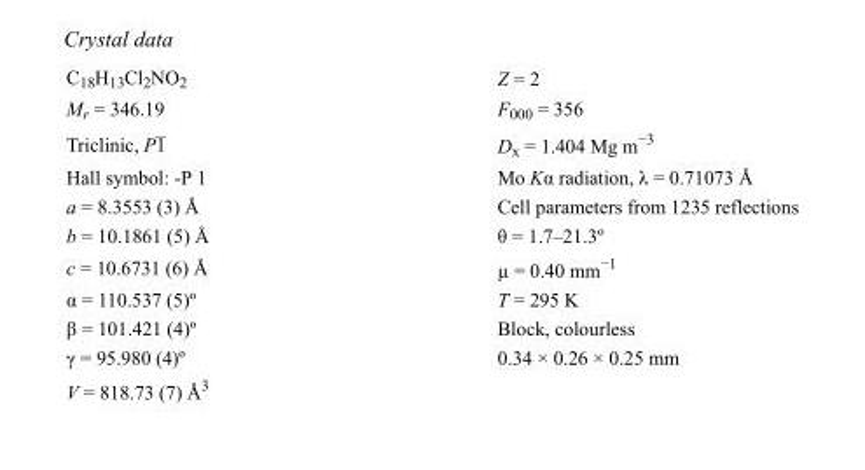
<table><tbody><tr><td>C<sub>18</sub>H<sub>13</sub>Cl<sub>2</sub>NO<sub>2</sub></td><td>Z = 2</td></tr><tr><td>M<sub>r</sub> = 346.19</td><td>F000 = 356</td></tr><tr><td>Triclinic, P1</td><td>D<sub>x</sub> = 1.404 Mg m<sup>−3</sup></td></tr><tr><td>Hall symbol: -P 1</td><td>Mo Kα radiation, λ = 0.71073 Å</td></tr><tr><td>a = 8.3553 (3) Å</td><td>Cell parameters from 1235 reflections</td></tr><tr><td>b = 10.1861 (5) Å</td><td>θ = 1.7–21.3º</td></tr><tr><td>c = 10.6731 (6) Å</td><td>µ = 0.40 mm<sup>−1</sup></td></tr><tr><td>α = 110.537 (5)º</td><td>T = 295 K</td></tr><tr><td>β = 101.421 (4)º</td><td>Block, colourless</td></tr><tr><td>γ = 95.980 (4)º</td><td>0.34 × 0.26 × 0.25 mm</td></tr><tr><td>V = 818.73 (7) Å<sup>3</sup></td><td></td></tr></tbody></table>